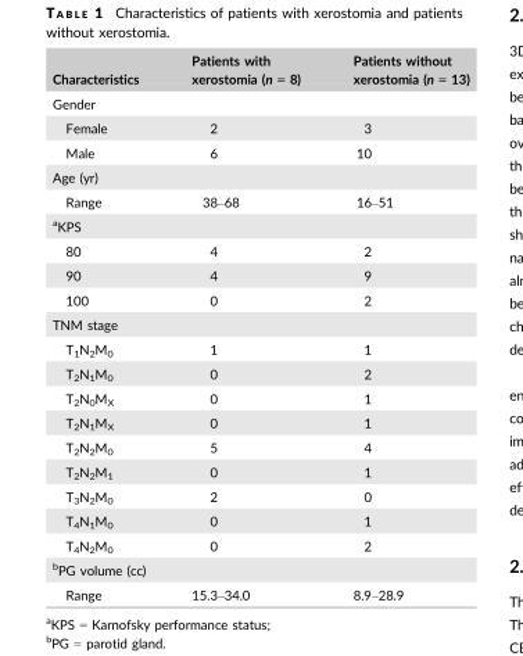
<table><thead><tr><td>Characteristics</td><td>Patients with xerostomia (n = 8)</td><td>Patients without xerostomia (n = 13)</td></tr></thead><tbody><tr><td colspan="3">Gender</td></tr><tr><td>Female</td><td>2</td><td>3</td></tr><tr><td>Male</td><td>6</td><td>10</td></tr><tr><td colspan="3">Age (yr)</td></tr><tr><td>Range</td><td>38–68</td><td>16–51</td></tr><tr><td colspan="3">aKPS</td></tr><tr><td>80</td><td>4</td><td>2</td></tr><tr><td>90</td><td>4</td><td>9</td></tr><tr><td>100</td><td>0</td><td>2</td></tr><tr><td colspan="3">TNM stage</td></tr><tr><td>T<sub>1</sub>N<sub>2</sub>M<sub>0</sub></td><td>1</td><td>1</td></tr><tr><td>T<sub>2</sub>N<sub>1</sub>M<sub>0</sub></td><td>0</td><td>2</td></tr><tr><td>T<sub>2</sub>N<sub>0</sub>M<sub>X</sub></td><td>0</td><td>1</td></tr><tr><td>T<sub>2</sub>N<sub>1</sub>M<sub>X</sub></td><td>0</td><td>1</td></tr><tr><td>T<sub>2</sub>N<sub>2</sub>M<sub>0</sub></td><td>5</td><td>4</td></tr><tr><td>T<sub>2</sub>N<sub>2</sub>M<sub>1</sub></td><td>0</td><td>1</td></tr><tr><td>T<sub>3</sub>N<sub>2</sub>M<sub>0</sub></td><td>2</td><td>0</td></tr><tr><td>T<sub>4</sub>N<sub>1</sub>M<sub>0</sub></td><td>0</td><td>1</td></tr><tr><td>T<sub>4</sub>N<sub>2</sub>M<sub>0</sub></td><td>0</td><td>2</td></tr><tr><td colspan="3">bPG volume (cc)</td></tr><tr><td>Range</td><td>15.3–34.0</td><td>8.9–28.9</td></tr></tbody></table>